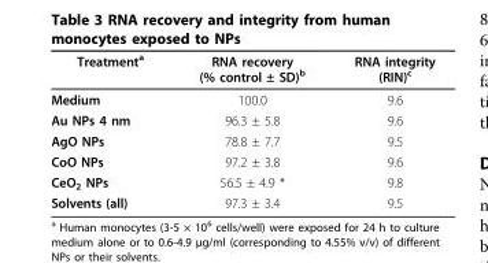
<table><thead><tr><td>Treatment<sup>a</sup></td><td>RNA recovery (% control ± SD)<sup>b</sup></td><td>RNA integrity (RIN)<sup>c</sup></td></tr></thead><tbody><tr><td>Medium</td><td>100.0</td><td>9.6</td></tr><tr><td>Au NPs 4 nm</td><td>96.3 ± 5.8</td><td>9.6</td></tr><tr><td>AgO NPs</td><td>78.8 ± 7.7</td><td>9.5</td></tr><tr><td>CoO NPs</td><td>97.2 ± 3.8</td><td>9.6</td></tr><tr><td>CeO<sub>2</sub> NPs</td><td>56.5 ± 4.9 *</td><td>9.8</td></tr><tr><td>Solvents (all)</td><td>97.3 ± 3.4</td><td>9.5</td></tr></tbody></table>